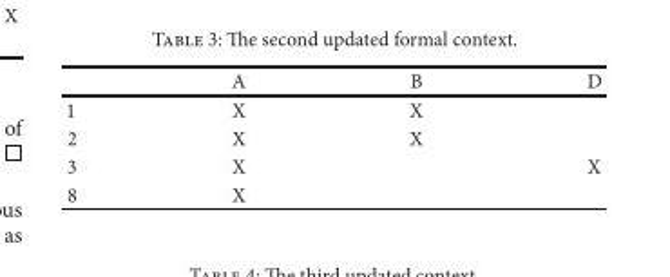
<table><thead><tr><td></td><td>A</td><td>B</td><td>D</td></tr></thead><tbody><tr><td>1</td><td>X</td><td>X</td><td></td></tr><tr><td>2</td><td>X</td><td>X</td><td></td></tr><tr><td>3</td><td>X</td><td></td><td>X</td></tr><tr><td>8</td><td>X</td><td></td><td></td></tr></tbody></table>